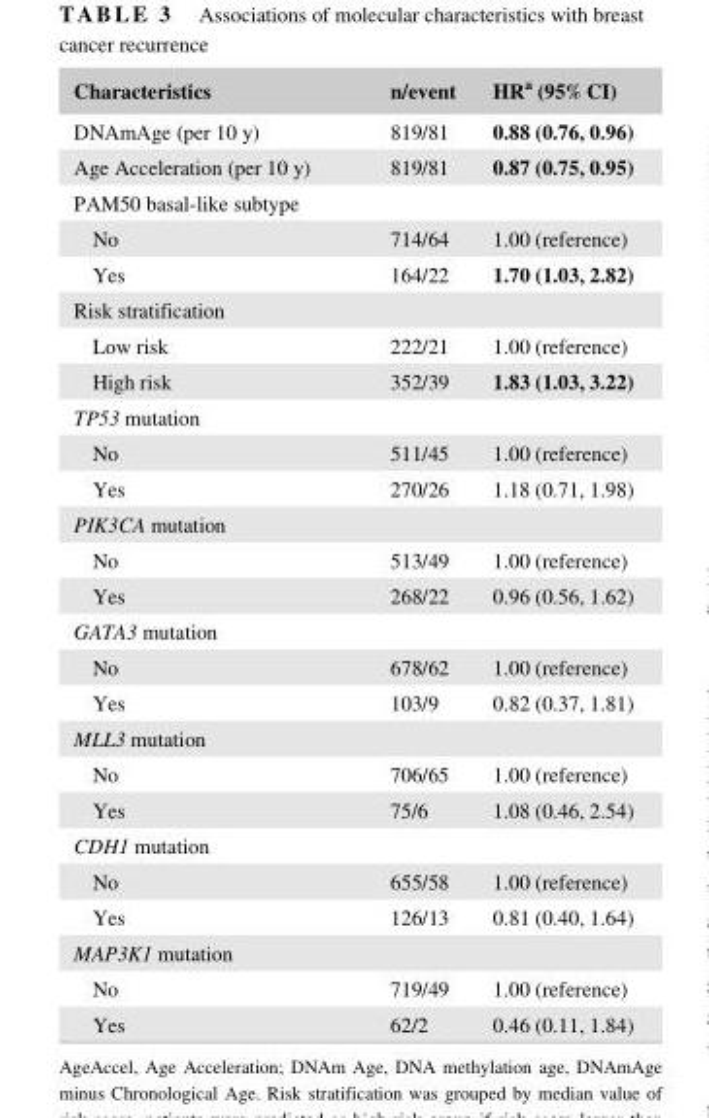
<table><thead><tr><td>Characteristics</td><td>n/event</td><td>HR<sup>a</sup> (95% CI)</td></tr></thead><tbody><tr><td>DNAmAge (per 10 y)</td><td>819/81</td><td>0.88 (0.76, 0.96)</td></tr><tr><td>Age Acceleration (per 10 y)</td><td>819/81</td><td>0.87 (0.75, 0.95)</td></tr><tr><td colspan="3">PAM50 basal- like subtype</td></tr><tr><td>No</td><td>714/64</td><td>1.00 (reference)</td></tr><tr><td>Yes</td><td>164/22</td><td>1.70 (1.03, 2.82)</td></tr><tr><td colspan="3">Risk stratification</td></tr><tr><td>Low risk</td><td>222/21</td><td>1.00 (reference)</td></tr><tr><td>High risk</td><td>352/39</td><td>1.83 (1.03, 3.22)</td></tr><tr><td colspan="3">TP53 mutation</td></tr><tr><td>No</td><td>511/45</td><td>1.00 (reference)</td></tr><tr><td>Yes</td><td>270/26</td><td>1.18 (0.71, 1.98)</td></tr><tr><td colspan="3">PIK3CA mutation</td></tr><tr><td>No</td><td>513/49</td><td>1.00 (reference)</td></tr><tr><td>Yes</td><td>268/22</td><td>0.96 (0.56, 1.62)</td></tr><tr><td colspan="3">GATA3 mutation</td></tr><tr><td>No</td><td>678/62</td><td>1.00 (reference)</td></tr><tr><td>Yes</td><td>103/9</td><td>0.82 (0.37, 1.81)</td></tr><tr><td colspan="3">MLL3 mutation</td></tr><tr><td>No</td><td>706/65</td><td>1.00 (reference)</td></tr><tr><td>Yes</td><td>75/6</td><td>1.08 (0.46, 2.54)</td></tr><tr><td colspan="3">CDH1 mutation</td></tr><tr><td>No</td><td>655/58</td><td>1.00 (reference)</td></tr><tr><td>Yes</td><td>126/13</td><td>0.81 (0.40, 1.64)</td></tr><tr><td colspan="3">MAP3K1 mutation</td></tr><tr><td>No</td><td>719/49</td><td>1.00 (reference)</td></tr><tr><td>Yes</td><td>62/2</td><td>0.46 (0.11, 1.84)</td></tr></tbody></table>